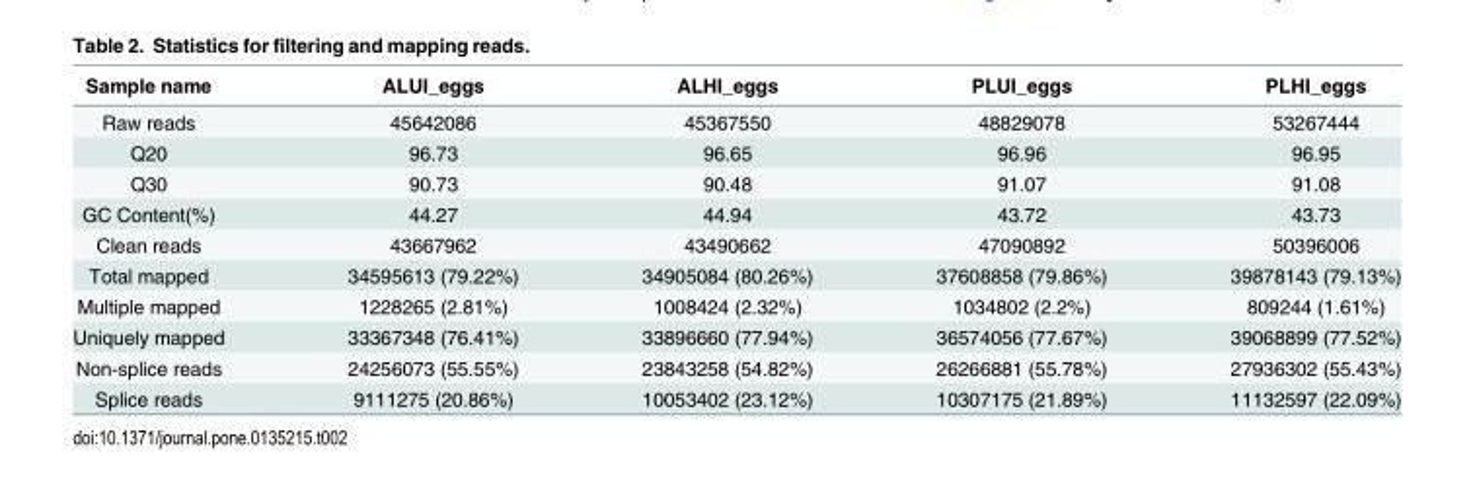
<table><thead><tr><td>Sample name</td><td>ALUI_eggs</td><td>ALHI_eggs</td><td>PLUI_eggs</td><td>PLHI_eggs</td></tr></thead><tbody><tr><td>Raw reads</td><td>45642086</td><td>45367550</td><td>48829078</td><td>53267444</td></tr><tr><td>Q20</td><td>96.73</td><td>96.65</td><td>96.96</td><td>96.95</td></tr><tr><td>Q30</td><td>90.73</td><td>90.48</td><td>91.07</td><td>91.08</td></tr><tr><td>GC Content(%)</td><td>44.27</td><td>44.94</td><td>43.72</td><td>43.73</td></tr><tr><td>Clean reads</td><td>43667962</td><td>43490662</td><td>47090892</td><td>50396006</td></tr><tr><td>Total mapped</td><td>34595613 (79.22%)</td><td>34905084 (80.26%)</td><td>37608858 (79.86%)</td><td>39878143 (79.13%)</td></tr><tr><td>Multiple mapped</td><td>1228265 (2.81%)</td><td>1008424 (2.32%)</td><td>1034802 (2.2%)</td><td>809244 (1.61%)</td></tr><tr><td>Uniquely mapped</td><td>33367348 (76.41%)</td><td>33896660 (77.94%)</td><td>36574056 (77.67%)</td><td>39068899 (77.52%)</td></tr><tr><td>Non-splice reads</td><td>24256073 (55.55%)</td><td>23843258 (54.82%)</td><td>26266881 (55.78%)</td><td>27936302 (55.43%)</td></tr><tr><td>Splice reads</td><td>9111275 (20.86%)</td><td>10053402 (23.12%)</td><td>10307175 (21.89%)</td><td>11132597 (22.09%)</td></tr></tbody></table>